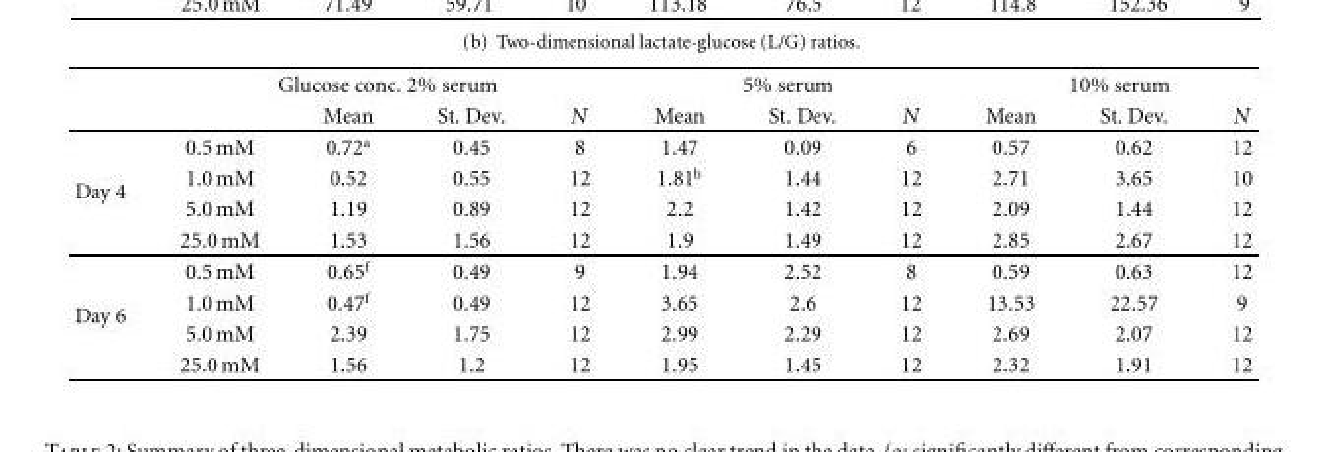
<table><thead><tr><td rowspan="2"></td><td colspan="4">Glucose conc. 2% serum</td><td colspan="3">5% serum</td><td colspan="3">10% serum</td></tr><tr><td></td><td>Mean</td><td>St. Dev.</td><td>N</td><td>Mean</td><td>St. Dev.</td><td>N</td><td>Mean</td><td>St. Dev.</td><td>N</td></tr></thead><tbody><tr><td rowspan="4">Day 4</td><td>0.5 mM</td><td>0.72<sup>a</sup></td><td>0.45</td><td>8</td><td>1.47</td><td>0.09</td><td>6</td><td>0.57</td><td>0.62</td><td>12</td></tr><tr><td>1.0 mM</td><td>0.52</td><td>0.55</td><td>12</td><td>1.81<sup>b</sup></td><td>1.44</td><td>12</td><td>2.71</td><td>3.65</td><td>10</td></tr><tr><td>5.0 mM</td><td>1.19</td><td>0.89</td><td>12</td><td>2.2</td><td>1.42</td><td>12</td><td>2.09</td><td>1.44</td><td>12</td></tr><tr><td>25.0 mM</td><td>1.53</td><td>1.56</td><td>12</td><td>1.9</td><td>1.49</td><td>12</td><td>2.85</td><td>2.67</td><td>12</td></tr><tr><td rowspan="4">Day 6</td><td>0.5 mM</td><td>0.65<sup>f</sup></td><td>0.49</td><td>9</td><td>1.94</td><td>2.52</td><td>8</td><td>0.59</td><td>0.63</td><td>12</td></tr><tr><td>1.0 mM</td><td>0.47<sup>f</sup></td><td>0.49</td><td>12</td><td>3.65</td><td>2.6</td><td>12</td><td>13.53</td><td>22.57</td><td>9</td></tr><tr><td>5.0 mM</td><td>2.39</td><td>1.75</td><td>12</td><td>2.99</td><td>2.29</td><td>12</td><td>2.69</td><td>2.07</td><td>12</td></tr><tr><td>25.0 mM</td><td>1.56</td><td>1.2</td><td>12</td><td>1.95</td><td>1.45</td><td>12</td><td>2.32</td><td>1.91</td><td>12</td></tr></tbody></table>